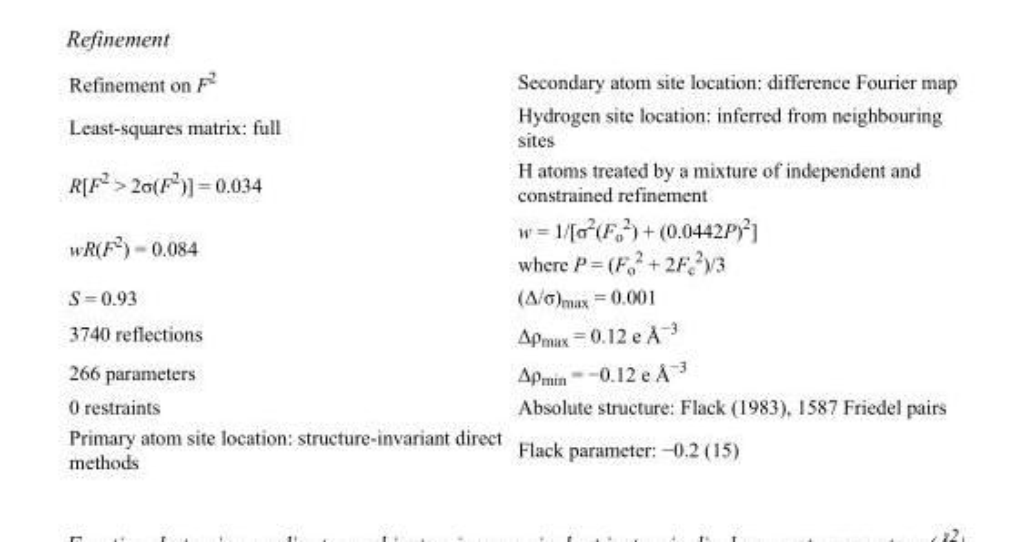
<table><tbody><tr><td>Refinement on F<sup>2</sup></td><td>Secondary atom site location: difference Fourier map</td></tr><tr><td>Least-squares matrix: full</td><td>Hydrogen site location: inferred from neighbouring sites</td></tr><tr><td>R[F<sup>2</sup> &gt; 2σ(F<sup>2</sup>)] = 0.034</td><td>H atoms treated by a mixture of independent and constrained refinement</td></tr><tr><td>wR(F<sup>2</sup>) = 0.084</td><td>w = 1/[σ<sup>2</sup>(F<sub>o</sub> <sup>2</sup>) + (0.0442P)<sup>2</sup>] where P = (F<sub>o</sub> <sup>2</sup> + 2F<sub>c</sub> <sup>2</sup>)/3</td></tr><tr><td>S = 0.93</td><td>(Δ/σ)<sub>max</sub> = 0.001</td></tr><tr><td>3740 reflections</td><td>Δρ<sub>max</sub> = 0.12 e Å<sup>−3</sup></td></tr><tr><td>266 parameters</td><td>Δρ<sub>min</sub> = −0.12 e Å<sup>−3</sup></td></tr><tr><td>0 restraints</td><td>Absolute structure: Flack (1983), 1587 Friedel pairs</td></tr><tr><td>Primary atom site location: structure-invariant direct methods</td><td>Flack parameter: −0.2 (15)</td></tr></tbody></table>